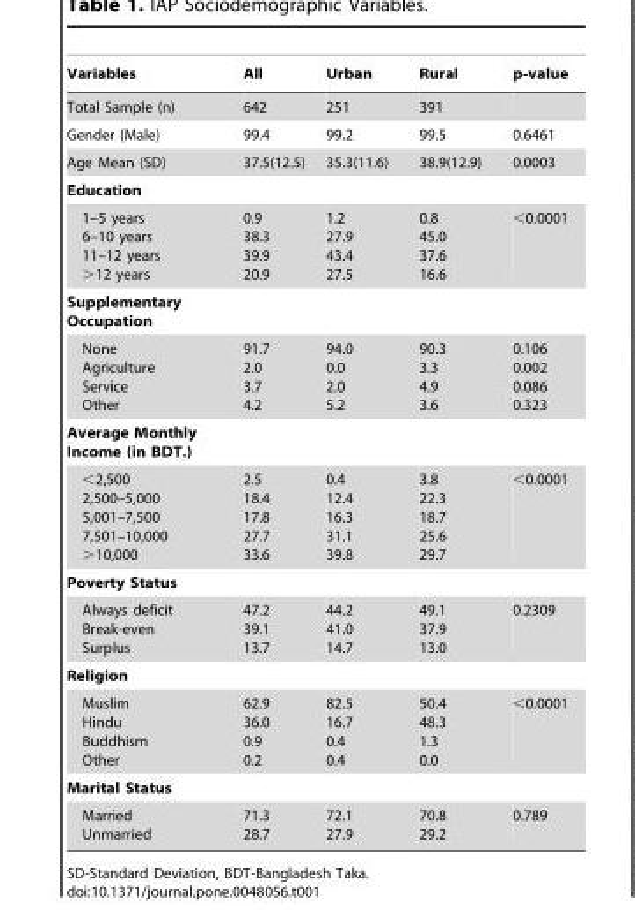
<table><thead><tr><td>Variables</td><td>All</td><td>Urban</td><td>Rural</td><td>p-value</td></tr></thead><tbody><tr><td>Total Sample (n)</td><td>642</td><td>251</td><td>391</td><td></td></tr><tr><td>Gender (Male)</td><td>99.4</td><td>99.2</td><td>99.5</td><td>0.6461</td></tr><tr><td>Age Mean (SD)</td><td>37.5(12.5)</td><td>35.3(11.6)</td><td>38.9(12.9)</td><td>0.0003</td></tr><tr><td colspan="5">Education</td></tr><tr><td>1–5 years 6–10 years 11–12 years &gt;12 years</td><td>0.9 38.3 39.9 20.9</td><td>1.2 27.9 43.4 27.5</td><td>0.8 45.0 37.6 16.6</td><td>&lt;0.0001</td></tr><tr><td colspan="5">Supplementary Occupation</td></tr><tr><td>None Agriculture Service Other</td><td>91.7 2.0 3.7 4.2</td><td>94.0 0.0 2.0 5.2</td><td>90.3 3.3 4.9 3.6</td><td>0.106 0.002 0.086 0.323</td></tr><tr><td colspan="5">Average Monthly Income (in BDT.)</td></tr><tr><td>&lt;2,500 2,500–5,000 5,001–7,500 7,501–10,000 &gt;10,000</td><td>2.5 18.4 17.8 27.7 33.6</td><td>0.4 12.4 16.3 31.1 39.8</td><td>3.8 22.3 18.7 25.6 29.7</td><td>&lt;0.0001</td></tr><tr><td colspan="5">Poverty Status</td></tr><tr><td>Always deficit Break-even Surplus</td><td>47.2 39.1 13.7</td><td>44.2 41.0 14.7</td><td>49.1 37.9 13.0</td><td>0.2309</td></tr><tr><td colspan="5">Religion</td></tr><tr><td>Muslim Hindu Buddhism Other</td><td>62.9 36.0 0.9 0.2</td><td>82.5 16.7 0.4 0.4</td><td>50.4 48.3 1.3 0.0</td><td>&lt;0.0001</td></tr><tr><td colspan="5">Marital Status</td></tr><tr><td>Married Unmarried</td><td>71.3 28.7</td><td>72.1 27.9</td><td>70.8 29.2</td><td>0.789</td></tr></tbody></table>